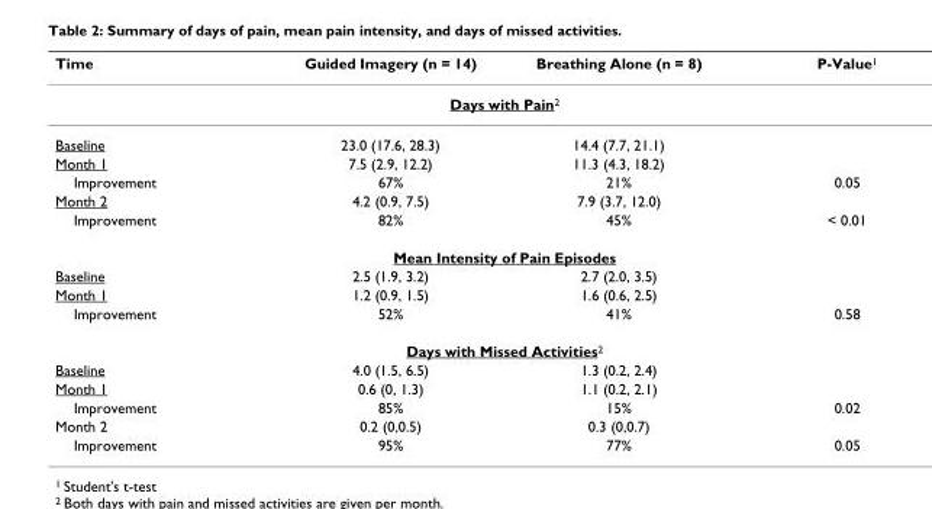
<table><thead><tr><td>Time</td><td>Guided Imagery (n = 14)</td><td>Breathing Alone (n = 8)</td><td>P-Value<sup>1</sup></td></tr></thead><tbody><tr><td colspan="4">Days with Pain<sup>2</sup></td></tr><tr><td>Baseline</td><td>23.0 (17.6, 28.3)</td><td>14.4 (7.7, 21.1)</td><td></td></tr><tr><td>Month 1</td><td>7.5 (2.9, 12.2)</td><td>11.3 (4.3, 18.2)</td><td></td></tr><tr><td>Improvement</td><td>67%</td><td>21%</td><td>0.05</td></tr><tr><td>Month 2</td><td>4.2 (0.9, 7.5)</td><td>7.9 (3.7, 12.0)</td><td></td></tr><tr><td>Improvement</td><td>82%</td><td>45%</td><td>&lt; 0.01</td></tr><tr><td colspan="4">Mean Intensity of Pain Episodes</td></tr><tr><td>Baseline</td><td>2.5 (1.9, 3.2)</td><td>2.7 (2.0, 3.5)</td><td></td></tr><tr><td>Month 1</td><td>1.2 (0.9, 1.5)</td><td>1.6 (0.6, 2.5)</td><td></td></tr><tr><td>Improvement</td><td>52%</td><td>41%</td><td>0.58</td></tr><tr><td colspan="4">Days with Missed Activities<sup>2</sup></td></tr><tr><td>Baseline</td><td>4.0 (1.5, 6.5)</td><td>1.3 (0.2, 2.4)</td><td></td></tr><tr><td>Month 1</td><td>0.6 (0, 1.3)</td><td>1.1 (0.2, 2.1)</td><td></td></tr><tr><td>Improvement</td><td>85%</td><td>15%</td><td>0.02</td></tr><tr><td>Month 2</td><td>0.2 (0,0.5)</td><td>0.3 (0,0.7)</td><td></td></tr><tr><td>Improvement</td><td>95%</td><td>77%</td><td>0.05</td></tr></tbody></table>